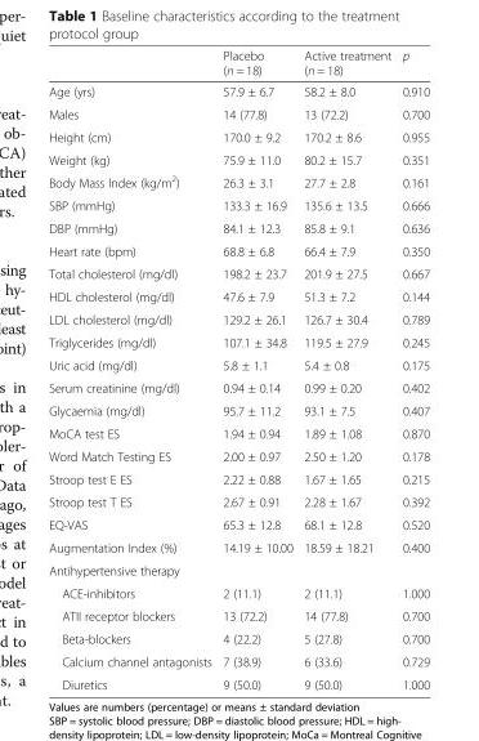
<table><thead><tr><td></td><td>Placebo (n = 18)</td><td>Active treatment (n = 18)</td><td>p</td></tr></thead><tbody><tr><td>Age (yrs)</td><td>57.9 ± 6.7</td><td>58.2 ± 8.0</td><td>0.910</td></tr><tr><td>Males</td><td>14 (77.8)</td><td>13 (72.2)</td><td>0.700</td></tr><tr><td>Height (cm)</td><td>170.0 ± 9.2</td><td>170.2 ± 8.6</td><td>0.955</td></tr><tr><td>Weight (kg)</td><td>75.9 ± 11.0</td><td>80.2 ± 15.7</td><td>0.351</td></tr><tr><td>Body Mass Index (kg/m<sup>2</sup>)</td><td>26.3 ± 3.1</td><td>27.7 ± 2.8</td><td>0.161</td></tr><tr><td>SBP (mmHg)</td><td>133.3 ± 16.9</td><td>135.6 ± 13.5</td><td>0.666</td></tr><tr><td>DBP (mmHg)</td><td>84.1 ± 12.3</td><td>85.8 ± 9.1</td><td>0.636</td></tr><tr><td>Heart rate (bpm)</td><td>68.8 ± 6.8</td><td>66.4 ± 7.9</td><td>0.350</td></tr><tr><td>Total cholesterol (mg/dl)</td><td>198.2 ± 23.7</td><td>201.9 ± 27.5</td><td>0.667</td></tr><tr><td>HDL cholesterol (mg/dl)</td><td>47.6 ± 7.9</td><td>51.3 ± 7.2</td><td>0.144</td></tr><tr><td>LDL cholesterol (mg/dl)</td><td>129.2 ± 26.1</td><td>126.7 ± 30.4</td><td>0.789</td></tr><tr><td>Triglycerides (mg/dl)</td><td>107.1 ± 34.8</td><td>119.5 ± 27.9</td><td>0.245</td></tr><tr><td>Uric acid (mg/dl)</td><td>5.8 ± 1.1</td><td>5.4 ± 0.8</td><td>0.175</td></tr><tr><td>Serum creatinine (mg/dl)</td><td>0.94 ± 0.14</td><td>0.99 ± 0.20</td><td>0.402</td></tr><tr><td>Glycaemia (mg/dl)</td><td>95.7 ± 11.2</td><td>93.1 ± 7.5</td><td>0.407</td></tr><tr><td>MoCA test ES</td><td>1.94 ± 0.94</td><td>1.89 ± 1.08</td><td>0.870</td></tr><tr><td>Word Match Testing ES</td><td>2.00 ± 0.97</td><td>2.50 ± 1.20</td><td>0.178</td></tr><tr><td>Stroop test E ES</td><td>2.22 ± 0.88</td><td>1.67 ± 1.65</td><td>0.215</td></tr><tr><td>Stroop test T ES</td><td>2.67 ± 0.91</td><td>2.28 ± 1.67</td><td>0.392</td></tr><tr><td>EQ-VAS</td><td>65.3 ± 12.8</td><td>68.1 ± 12.8</td><td>0.520</td></tr><tr><td>Augmentation Index (%)</td><td>14.19 ± 10.00</td><td>18.59 ± 18.21</td><td>0.400</td></tr><tr><td colspan="4">Antihypertensive therapy</td></tr><tr><td>ACE-inhibitors</td><td>2 (11.1)</td><td>2 (11.1)</td><td>1.000</td></tr><tr><td>ATII receptor blockers</td><td>13 (72.2)</td><td>14 (77.8)</td><td>0.700</td></tr><tr><td>Beta-blockers</td><td>4 (22.2)</td><td>5 (27.8)</td><td>0.700</td></tr><tr><td>Calcium channel antagonists</td><td>7 (38.9)</td><td>6 (33.6)</td><td>0.729</td></tr><tr><td>Diuretics</td><td>9 (50.0)</td><td>9 (50.0)</td><td>1.000</td></tr></tbody></table>